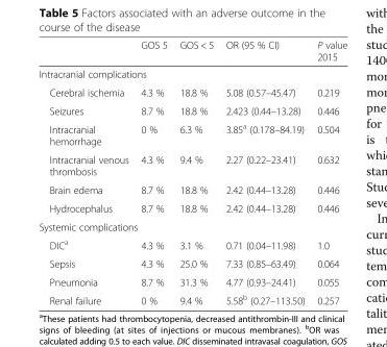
<table><thead><tr><td></td><td>GOS 5</td><td>GOS &lt; 5</td><td>OR (95 % CI)</td><td>P value 2015</td></tr></thead><tbody><tr><td colspan="5">Intracranial complications</td></tr><tr><td>Cerebral ischemia</td><td>4.3 %</td><td>18.8 %</td><td>5.08 (0.57–45.47)</td><td>0.219</td></tr><tr><td>Seizures</td><td>8.7 %</td><td>18.8 %</td><td>2.423 (0.44–13.28)</td><td>0.446</td></tr><tr><td>Intracranial hemorrhage</td><td>0 %</td><td>6.3 %</td><td>3.85<sup>a</sup> (0.178–84.19)</td><td>0.504</td></tr><tr><td>Intracranial venous thrombosis</td><td>4.3 %</td><td>9.4 %</td><td>2.27 (0.22–23.41)</td><td>0.632</td></tr><tr><td>Brain edema</td><td>8.7 %</td><td>18.8 %</td><td>2.42 (0.44–13.28)</td><td>0.446</td></tr><tr><td>Hydrocephalus</td><td>8.7 %</td><td>18.8 %</td><td>2.42 (0.44–13.28)</td><td>0.446</td></tr><tr><td colspan="5">Systemic complications</td></tr><tr><td>DIC<sup>a</sup></td><td>4.3 %</td><td>3.1 %</td><td>0.71 (0.04–11.98)</td><td>1.0</td></tr><tr><td>Sepsis</td><td>4.3 %</td><td>25.0 %</td><td>7.33 (0.85–63.49)</td><td>0.064</td></tr><tr><td>Pneumonia</td><td>8.7 %</td><td>31.3 %</td><td>4.77 (0.93–24.41)</td><td>0.055</td></tr><tr><td>Renal failure</td><td>0 %</td><td>9.4 %</td><td>5.58<sup>b</sup> (0.27–113.50)</td><td>0.257</td></tr></tbody></table>